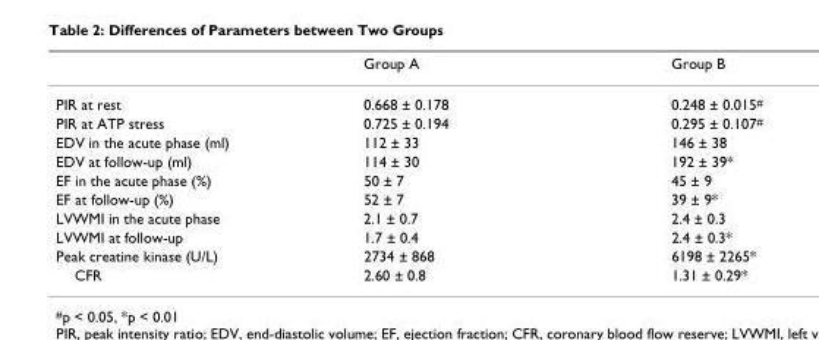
<table><thead><tr><td></td><td>Group A</td><td>Group B</td></tr></thead><tbody><tr><td>PIR at rest</td><td>0.668 ± 0.178</td><td>0.248 ± 0.015<sup>#</sup></td></tr><tr><td>PIR at ATP stress</td><td>0.725 ± 0.194</td><td>0.295 ± 0.107<sup>#</sup></td></tr><tr><td>EDV in the acute phase (ml)</td><td>112 ± 33</td><td>146 ± 38</td></tr><tr><td>EDV at follow-up (ml)</td><td>114 ± 30</td><td>192 ± 39*</td></tr><tr><td>EF in the acute phase (%)</td><td>50 ± 7</td><td>45 ± 9</td></tr><tr><td>EF at follow-up (%)</td><td>52 ± 7</td><td>39 ± 9*</td></tr><tr><td>LVWMI in the acute phase</td><td>2.1 ± 0.7</td><td>2.4 ± 0.3</td></tr><tr><td>LVWMI at follow-up</td><td>1.7 ± 0.4</td><td>2.4 ± 0.3*</td></tr><tr><td>Peak creatine kinase (U/L)</td><td>2734 ± 868</td><td>6198 ± 2265*</td></tr><tr><td>CFR</td><td>2.60 ± 0.8</td><td>1.31 ± 0.29*</td></tr></tbody></table>